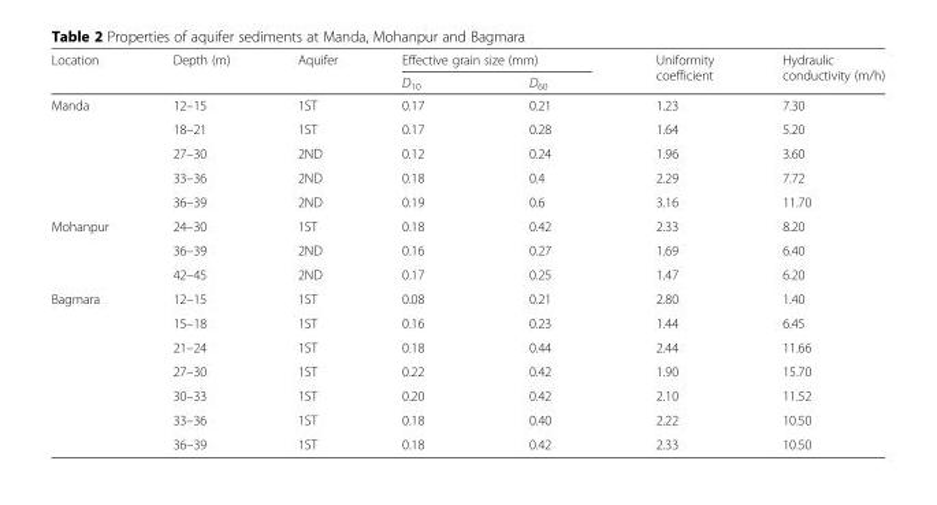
<table><thead><tr><td rowspan="2">Location</td><td rowspan="2">Depth (m)</td><td rowspan="2">Aquifer</td><td colspan="2">Effective grain size (mm)</td><td rowspan="2">Uniformity coefficient</td><td rowspan="2">Hydraulic conductivity (m/h)</td></tr><tr><td>D<sub>10</sub></td><td>D<sub>60</sub></td></tr></thead><tbody><tr><td rowspan="5">Manda</td><td>12–15</td><td>1ST</td><td>0.17</td><td>0.21</td><td>1.23</td><td>7.30</td></tr><tr><td>18–21</td><td>1ST</td><td>0.17</td><td>0.28</td><td>1.64</td><td>5.20</td></tr><tr><td>27–30</td><td>2ND</td><td>0.12</td><td>0.24</td><td>1.96</td><td>3.60</td></tr><tr><td>33–36</td><td>2ND</td><td>0.18</td><td>0.4</td><td>2.29</td><td>7.72</td></tr><tr><td>36–39</td><td>2ND</td><td>0.19</td><td>0.6</td><td>3.16</td><td>11.70</td></tr><tr><td rowspan="3">Mohanpur</td><td>24–30</td><td>1ST</td><td>0.18</td><td>0.42</td><td>2.33</td><td>8.20</td></tr><tr><td>36–39</td><td>2ND</td><td>0.16</td><td>0.27</td><td>1.69</td><td>6.40</td></tr><tr><td>42–45</td><td>2ND</td><td>0.17</td><td>0.25</td><td>1.47</td><td>6.20</td></tr><tr><td rowspan="7">Bagmara</td><td>12–15</td><td>1ST</td><td>0.08</td><td>0.21</td><td>2.80</td><td>1.40</td></tr><tr><td>15–18</td><td>1ST</td><td>0.16</td><td>0.23</td><td>1.44</td><td>6.45</td></tr><tr><td>21–24</td><td>1ST</td><td>0.18</td><td>0.44</td><td>2.44</td><td>11.66</td></tr><tr><td>27–30</td><td>1ST</td><td>0.22</td><td>0.42</td><td>1.90</td><td>15.70</td></tr><tr><td>30–33</td><td>1ST</td><td>0.20</td><td>0.42</td><td>2.10</td><td>11.52</td></tr><tr><td>33–36</td><td>1ST</td><td>0.18</td><td>0.40</td><td>2.22</td><td>10.50</td></tr><tr><td>36–39</td><td>1ST</td><td>0.18</td><td>0.42</td><td>2.33</td><td>10.50</td></tr></tbody></table>